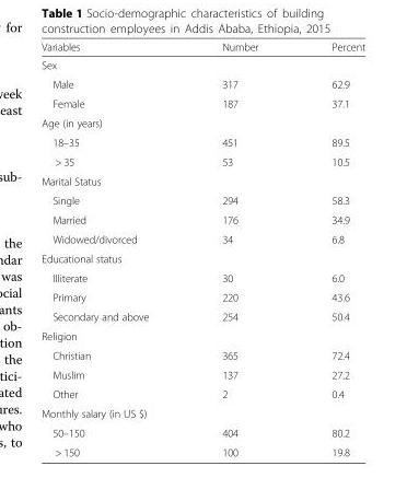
<table><thead><tr><td>Variables</td><td>Number</td><td>Percent</td></tr></thead><tbody><tr><td colspan="3">Sex</td></tr><tr><td>Male</td><td>317</td><td>62.9</td></tr><tr><td>Female</td><td>187</td><td>37.1</td></tr><tr><td colspan="3">Age (in years)</td></tr><tr><td>18–35</td><td>451</td><td>89.5</td></tr><tr><td>&gt; 35</td><td>53</td><td>10.5</td></tr><tr><td colspan="3">Marital Status</td></tr><tr><td>Single</td><td>294</td><td>58.3</td></tr><tr><td>Married</td><td>176</td><td>34.9</td></tr><tr><td>Widowed/divorced</td><td>34</td><td>6.8</td></tr><tr><td colspan="3">Educational status</td></tr><tr><td>Illiterate</td><td>30</td><td>6.0</td></tr><tr><td>Primary</td><td>220</td><td>43.6</td></tr><tr><td>Secondary and above</td><td>254</td><td>50.4</td></tr><tr><td colspan="3">Religion</td></tr><tr><td>Christian</td><td>365</td><td>72.4</td></tr><tr><td>Muslim</td><td>137</td><td>27.2</td></tr><tr><td>Other</td><td>2</td><td>0.4</td></tr><tr><td colspan="3">Monthly salary (in US $)</td></tr><tr><td>50–150</td><td>404</td><td>80.2</td></tr><tr><td>&gt; 150</td><td>100</td><td>19.8</td></tr></tbody></table>